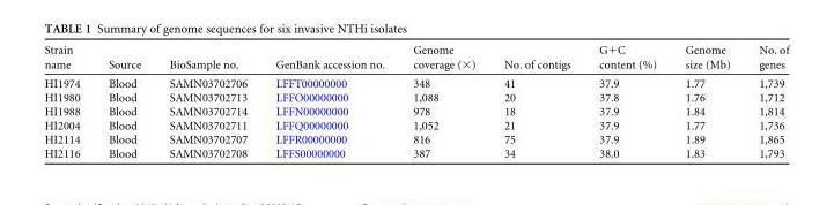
<table><thead><tr><td>Strain name</td><td>Source</td><td>BioSample no.</td><td>GenBank accession no.</td><td>Genome coverage (×)</td><td>No. of contigs</td><td>G+C content (%)</td><td>Genome size (Mb)</td><td>No. of genes</td></tr></thead><tbody><tr><td>HI1974</td><td>Blood</td><td>SAMN03702706</td><td>LFFT00000000</td><td>348</td><td>41</td><td>37.9</td><td>1.77</td><td>1,739</td></tr><tr><td>HI1980</td><td>Blood</td><td>SAMN03702713</td><td>LFFO00000000</td><td>1,088</td><td>20</td><td>37.8</td><td>1.76</td><td>1,712</td></tr><tr><td>HI1988</td><td>Blood</td><td>SAMN03702714</td><td>LFFN00000000</td><td>978</td><td>18</td><td>37.9</td><td>1.84</td><td>1,814</td></tr><tr><td>HI2004</td><td>Blood</td><td>SAMN03702711</td><td>LFFQ00000000</td><td>1,052</td><td>21</td><td>37.9</td><td>1.77</td><td>1,736</td></tr><tr><td>HI2114</td><td>Blood</td><td>SAMN03702707</td><td>LFFR00000000</td><td>816</td><td>75</td><td>37.9</td><td>1.89</td><td>1,865</td></tr><tr><td>HI2116</td><td>Blood</td><td>SAMN03702708</td><td>LFFS00000000</td><td>387</td><td>34</td><td>38.0</td><td>1.83</td><td>1,793</td></tr></tbody></table>